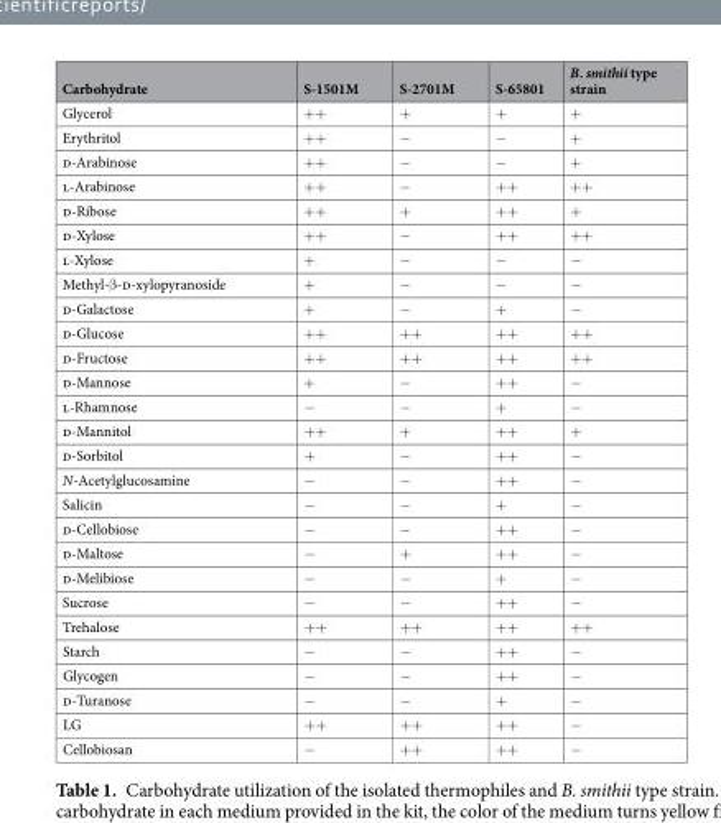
<table><thead><tr><td>Carbohydrate</td><td>S-1501M</td><td>S-2701M</td><td>S-65801</td><td>B. smithii type strain</td></tr></thead><tbody><tr><td>Glycerol</td><td>++</td><td>+</td><td>+</td><td>+</td></tr><tr><td>Erythritol</td><td>++</td><td>−</td><td>−</td><td>+</td></tr><tr><td>d-Arabinose</td><td>++</td><td>−</td><td>−</td><td>+</td></tr><tr><td>l-Arabinose</td><td>++</td><td>−</td><td>++</td><td>++</td></tr><tr><td>d-Ribose</td><td>++</td><td>+</td><td>++</td><td>+</td></tr><tr><td>d-Xylose</td><td>++</td><td>−</td><td>++</td><td>++</td></tr><tr><td>l-Xylose</td><td>+</td><td>−</td><td>−</td><td>−</td></tr><tr><td>Methyl-β-d-xylopyranoside</td><td>+</td><td>−</td><td>−</td><td>−</td></tr><tr><td>d-Galactose</td><td>+</td><td>−</td><td>+</td><td>−</td></tr><tr><td>d-Glucose</td><td>++</td><td>++</td><td>++</td><td>++</td></tr><tr><td>d-Fructose</td><td>++</td><td>++</td><td>++</td><td>++</td></tr><tr><td>d-Mannose</td><td>+</td><td>−</td><td>++</td><td>−</td></tr><tr><td>l-Rhamnose</td><td>−</td><td>−</td><td>+</td><td>−</td></tr><tr><td>d-Mannitol</td><td>++</td><td>+</td><td>++</td><td>+</td></tr><tr><td>d-Sorbitol</td><td>+</td><td>−</td><td>++</td><td>−</td></tr><tr><td>N-Acetylglucosamine</td><td>−</td><td>−</td><td>++</td><td>−</td></tr><tr><td>Salicin</td><td>−</td><td>−</td><td>+</td><td>−</td></tr><tr><td>d-Cellobiose</td><td>−</td><td>−</td><td>++</td><td>−</td></tr><tr><td>d-Maltose</td><td>−</td><td>+</td><td>++</td><td>−</td></tr><tr><td>d-Melibiose</td><td>−</td><td>−</td><td>+</td><td>−</td></tr><tr><td>Sucrose</td><td>−</td><td>−</td><td>++</td><td>−</td></tr><tr><td>Trehalose</td><td>++</td><td>++</td><td>++</td><td>++</td></tr><tr><td>Starch</td><td>−</td><td>−</td><td>++</td><td>−</td></tr><tr><td>Glycogen</td><td>−</td><td>−</td><td>++</td><td>−</td></tr><tr><td>d-Turanose</td><td>−</td><td>−</td><td>+</td><td>−</td></tr><tr><td>LG</td><td>++</td><td>++</td><td>++</td><td>−</td></tr><tr><td>Cellobiosan</td><td>−</td><td>++</td><td>++</td><td>−</td></tr></tbody></table>